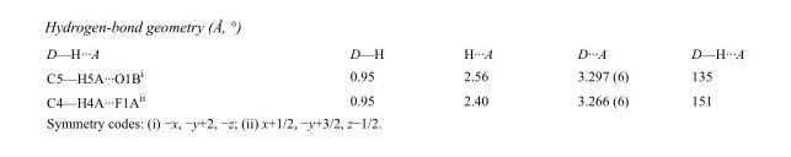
<table><tbody><tr><td>D—H···A</td><td>D—H</td><td>H···A</td><td>D···A</td><td>D—H···A</td></tr><tr><td>C5—H5A···O1B<sup>i</sup></td><td>0.95</td><td>2.56</td><td>3.297 (6)</td><td>135</td></tr><tr><td>C4—H4A···F1A<sup>ii</sup></td><td>0.95</td><td>2.40</td><td>3.266 (6)</td><td>151</td></tr></tbody></table>